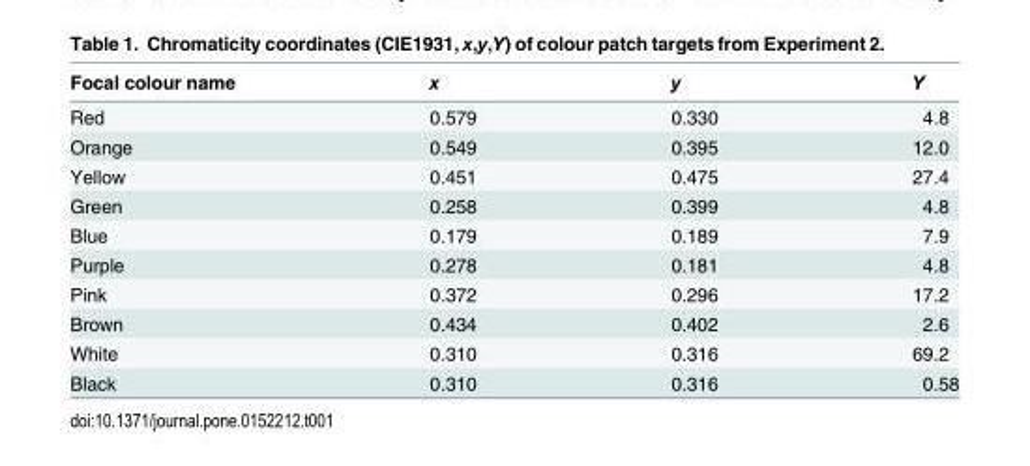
<table><thead><tr><td>Focal colour name</td><td>x</td><td>y</td><td>Y</td></tr></thead><tbody><tr><td>Red</td><td>0.579</td><td>0.330</td><td>4.8</td></tr><tr><td>Orange</td><td>0.549</td><td>0.395</td><td>12.0</td></tr><tr><td>Yellow</td><td>0.451</td><td>0.475</td><td>27.4</td></tr><tr><td>Green</td><td>0.258</td><td>0.399</td><td>4.8</td></tr><tr><td>Blue</td><td>0.179</td><td>0.189</td><td>7.9</td></tr><tr><td>Purple</td><td>0.278</td><td>0.181</td><td>4.8</td></tr><tr><td>Pink</td><td>0.372</td><td>0.296</td><td>17.2</td></tr><tr><td>Brown</td><td>0.434</td><td>0.402</td><td>2.6</td></tr><tr><td>White</td><td>0.310</td><td>0.316</td><td>69.2</td></tr><tr><td>Black</td><td>0.310</td><td>0.316</td><td>0.58</td></tr></tbody></table>